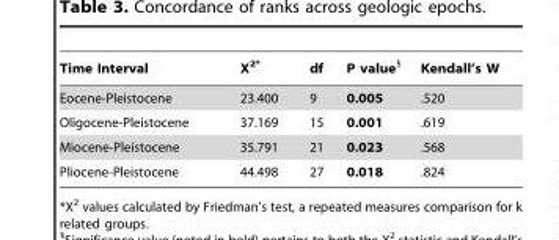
<table><thead><tr><td>Time Interval</td><td>X<sup>2</sup>*</td><td>df</td><td>P value§</td><td>Kendall’s W</td></tr></thead><tbody><tr><td>Eocene-Pleistocene</td><td>23.400</td><td>9</td><td>0.005</td><td>.520</td></tr><tr><td>Oligocene-Pleistocene</td><td>37.169</td><td>15</td><td>0.001</td><td>.619</td></tr><tr><td>Miocene-Pleistocene</td><td>35.791</td><td>21</td><td>0.023</td><td>.568</td></tr><tr><td>Pliocene-Pleistocene</td><td>44.498</td><td>27</td><td>0.018</td><td>.824</td></tr></tbody></table>